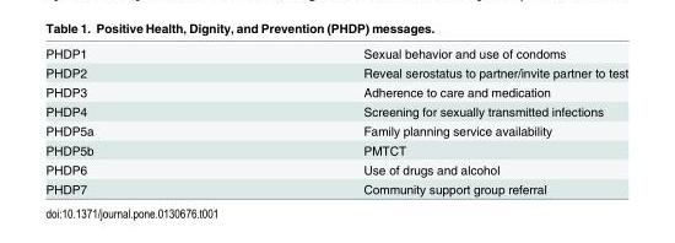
<table><tbody><tr><td>PHDP1</td><td>Sexual behavior and use of condoms</td></tr><tr><td>PHDP2</td><td>Reveal serostatus to partner/invite partner to test</td></tr><tr><td>PHDP3</td><td>Adherence to care and medication</td></tr><tr><td>PHDP4</td><td>Screening for sexually transmitted infections</td></tr><tr><td>PHDP5a</td><td>Family planning service availability</td></tr><tr><td>PHDP5b</td><td>PMTCT</td></tr><tr><td>PHDP6</td><td>Use of drugs and alcohol</td></tr><tr><td>PHDP7</td><td>Community support group referral</td></tr></tbody></table>